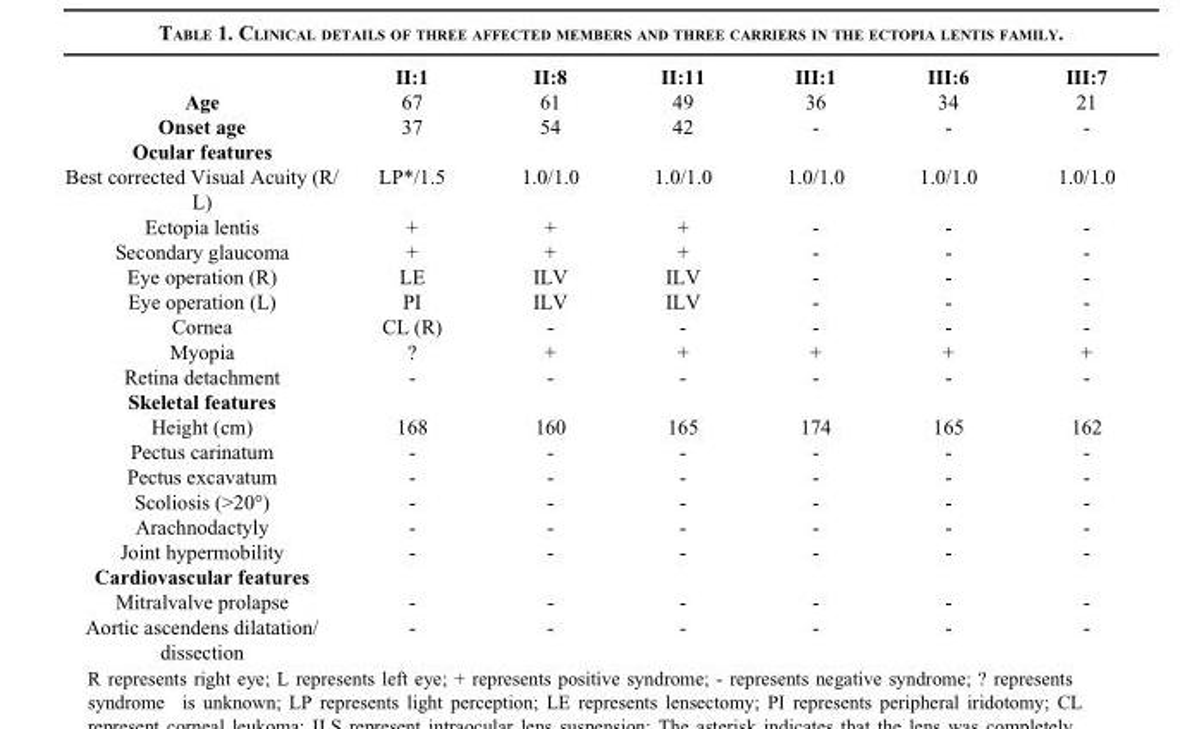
<table><thead><tr><td></td><td>II:1</td><td>II:8</td><td>II:11</td><td>III:1</td><td>III:6</td><td>III:7</td></tr></thead><tbody><tr><td>Age</td><td>67</td><td>61</td><td>49</td><td>36</td><td>34</td><td>21</td></tr><tr><td>Onset age</td><td>37</td><td>54</td><td>42</td><td>-</td><td>-</td><td>-</td></tr><tr><td colspan="7">Ocular features</td></tr><tr><td>Best corrected Visual Acuity (R/ L)</td><td>LP*/1.5</td><td>1.0/1.0</td><td>1.0/1.0</td><td>1.0/1.0</td><td>1.0/1.0</td><td>1.0/1.0</td></tr><tr><td>Ectopia lentis</td><td>+</td><td>+</td><td>+</td><td>-</td><td>-</td><td>-</td></tr><tr><td>Secondary glaucoma</td><td>+</td><td>+</td><td>+</td><td>-</td><td>-</td><td>-</td></tr><tr><td>Eye operation (R)</td><td>LE</td><td>ILV</td><td>ILV</td><td>-</td><td>-</td><td>-</td></tr><tr><td>Eye operation (L)</td><td>PI</td><td>ILV</td><td>ILV</td><td>-</td><td>-</td><td>-</td></tr><tr><td>Cornea</td><td>CL (R)</td><td>-</td><td>-</td><td>-</td><td>-</td><td>-</td></tr><tr><td>Myopia</td><td>?</td><td>+</td><td>+</td><td>+</td><td>+</td><td>+</td></tr><tr><td>Retina detachment</td><td>-</td><td>-</td><td>-</td><td>-</td><td>-</td><td>-</td></tr><tr><td colspan="7">Skeletal features</td></tr><tr><td>Height (cm)</td><td>168</td><td>160</td><td>165</td><td>174</td><td>165</td><td>162</td></tr><tr><td>Pectus carinatum</td><td>-</td><td>-</td><td>-</td><td>-</td><td>-</td><td>-</td></tr><tr><td>Pectus excavatum</td><td>-</td><td>-</td><td>-</td><td>-</td><td>-</td><td>-</td></tr><tr><td>Scoliosis (&gt;20°)</td><td>-</td><td>-</td><td>-</td><td>-</td><td>-</td><td>-</td></tr><tr><td>Arachnodactyly</td><td>-</td><td>-</td><td>-</td><td>-</td><td>-</td><td>-</td></tr><tr><td>Joint hypermobility</td><td>-</td><td>-</td><td>-</td><td>-</td><td>-</td><td>-</td></tr><tr><td colspan="7">Cardiovascular features</td></tr><tr><td>Mitralvalve prolapse</td><td>-</td><td>-</td><td>-</td><td>-</td><td>-</td><td>-</td></tr><tr><td>Aortic ascendens dilatation/ dissection</td><td>-</td><td>-</td><td>-</td><td>-</td><td>-</td><td>-</td></tr></tbody></table>